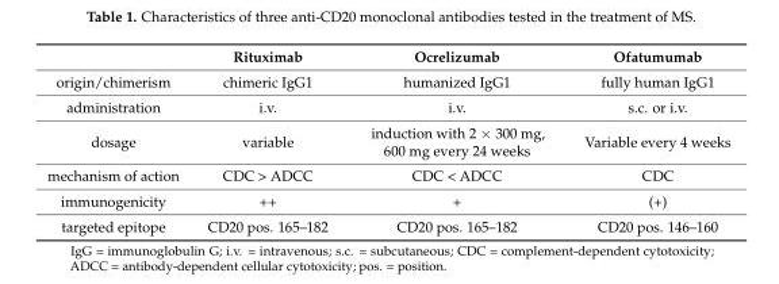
<table><thead><tr><td></td><td>Rituximab</td><td>Ocrelizumab</td><td>Ofatumumab</td></tr></thead><tbody><tr><td>origin/chimerism</td><td>chimeric IgG1</td><td>humanized IgG1</td><td>fully human IgG1</td></tr><tr><td>administration</td><td>i.v.</td><td>i.v.</td><td>s.c. or i.v.</td></tr><tr><td>dosage</td><td>variable</td><td>induction with 2 × 300 mg, 600 mg every 24 weeks</td><td>Variable every 4 weeks</td></tr><tr><td>mechanism of action</td><td>CDC &gt; ADCC</td><td>CDC &lt; ADCC</td><td>CDC</td></tr><tr><td>immunogenicity</td><td>++</td><td>+</td><td>(+)</td></tr><tr><td>targeted epitope</td><td>CD20 pos. 165–182</td><td>CD20 pos. 165–182</td><td>CD20 pos. 146–160</td></tr></tbody></table>